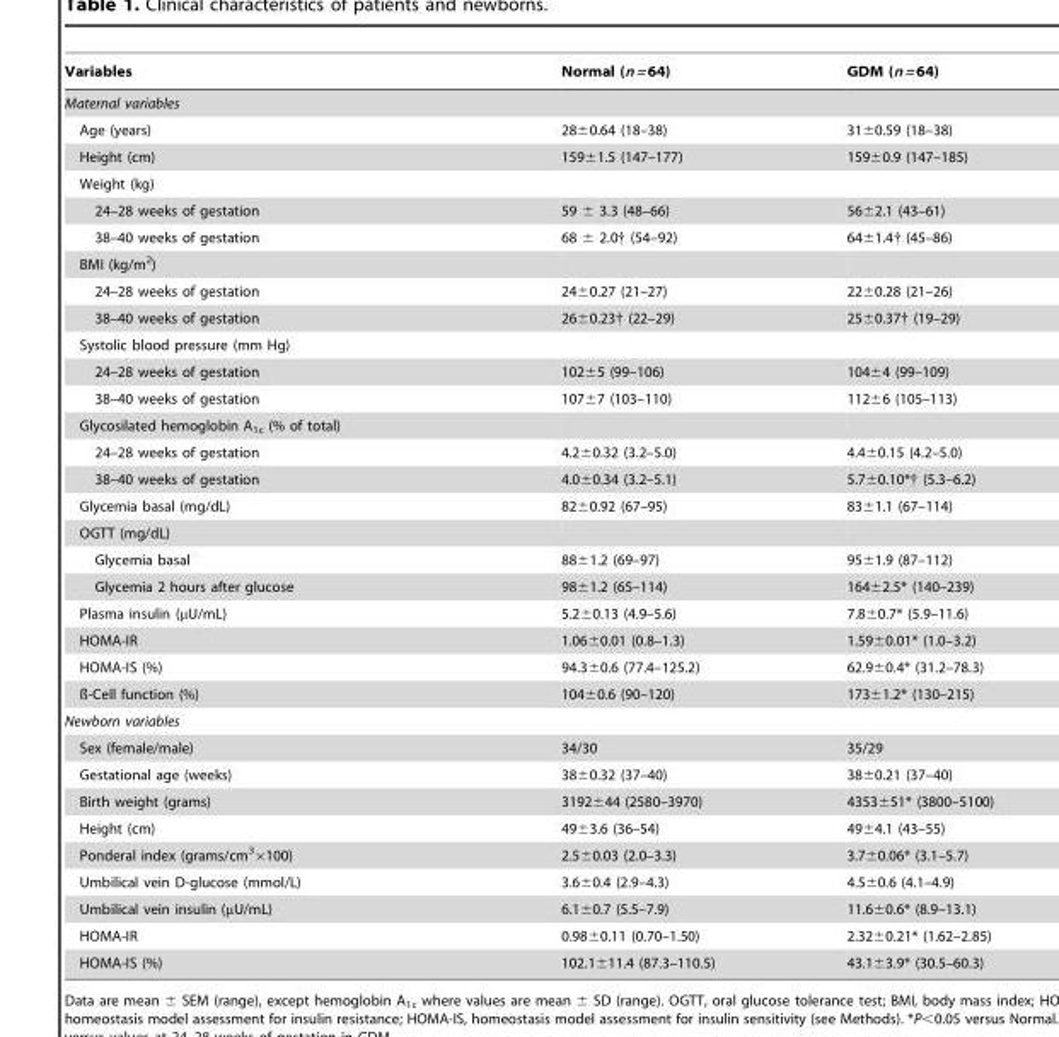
<table><thead><tr><td>Variables</td><td>Normal (n = 64)</td><td>GDM (n = 64)</td></tr></thead><tbody><tr><td colspan="3">Maternal variables</td></tr><tr><td>Age (years)</td><td>28±0.64 (18–38)</td><td>31±0.59 (18–38)</td></tr><tr><td>Height (cm)</td><td>159±1.5 (147–177)</td><td>159±0.9 (147–185)</td></tr><tr><td colspan="3">Weight (kg)</td></tr><tr><td>24–28 weeks of gestation</td><td>59 ± 3.3 (48–66)</td><td>56±2.1 (43–61)</td></tr><tr><td>38–40 weeks of gestation</td><td>68 ± 2.0† (54–92)</td><td>64±1.4† (45–86)</td></tr><tr><td colspan="3">BMI (kg/m<sup>2</sup>)</td></tr><tr><td>24–28 weeks of gestation</td><td>24±0.27 (21–27)</td><td>22±0.28 (21–26)</td></tr><tr><td>38–40 weeks of gestation</td><td>26±0.23† (22–29)</td><td>25±0.37† (19–29)</td></tr><tr><td colspan="3">Systolic blood pressure (mm Hg)</td></tr><tr><td>24–28 weeks of gestation</td><td>102±5 (99–106)</td><td>104±4 (99–109)</td></tr><tr><td>38–40 weeks of gestation</td><td>107±7 (103–110)</td><td>112±6 (105–113)</td></tr><tr><td colspan="3">Glycosilated hemoglobin A<sub>1c</sub> (% of total)</td></tr><tr><td>24–28 weeks of gestation</td><td>4.2±0.32 (3.2–5.0)</td><td>4.4±0.15 (4.2–5.0)</td></tr><tr><td>38–40 weeks of gestation</td><td>4.0±0.34 (3.2–5.1)</td><td>5.7±0.10*† (5.3–6.2)</td></tr><tr><td>Glycemia basal (mg/dL)</td><td>82±0.92 (67–95)</td><td>83±1.1 (67–114)</td></tr><tr><td colspan="3">OGTT (mg/dL)</td></tr><tr><td>Glycemia basal</td><td>88±1.2 (69–97)</td><td>95±1.9 (87–112)</td></tr><tr><td>Glycemia 2 hours after glucose</td><td>98±1.2 (65–114)</td><td>164±2.5* (140–239)</td></tr><tr><td>Plasma insulin (μU/mL)</td><td>5.2±0.13 (4.9–5.6)</td><td>7.8±0.7* (5.9–11.6)</td></tr><tr><td>HOMA-IR</td><td>1.06±0.01 (0.8–1.3)</td><td>1.59±0.01* (1.0–3.2)</td></tr><tr><td>HOMA-IS (%)</td><td>94.3±0.6 (77.4–125.2)</td><td>62.9±0.4* (31.2–78.3)</td></tr><tr><td>ß-Cell function (%)</td><td>104±0.6 (90–120)</td><td>173±1.2* (130–215)</td></tr><tr><td colspan="3">Newborn variables</td></tr><tr><td>Sex (female/male)</td><td>34/30</td><td>35/29</td></tr><tr><td>Gestational age (weeks)</td><td>38±0.32 (37–40)</td><td>38±0.21 (37–40)</td></tr><tr><td>Birth weight (grams)</td><td>3192±44 (2580–3970)</td><td>4353±51* (3800–5100)</td></tr><tr><td>Height (cm)</td><td>49±3.6 (36–54)</td><td>49±4.1 (43–55)</td></tr><tr><td>Ponderal index (grams/cm<sup>3</sup>×100)</td><td>2.5±0.03 (2.0–3.3)</td><td>3.7±0.06* (3.1–5.7)</td></tr><tr><td>Umbilical vein D-glucose (mmol/L)</td><td>3.6±0.4 (2.9–4.3)</td><td>4.5±0.6 (4.1–4.9)</td></tr><tr><td>Umbilical vein insulin (μU/mL)</td><td>6.1±0.7 (5.5–7.9)</td><td>11.6±0.6* (8.9–13.1)</td></tr><tr><td>HOMA-IR</td><td>0.98±0.11 (0.70–1.50)</td><td>2.32±0.21* (1.62–2.85)</td></tr><tr><td>HOMA-IS (%)</td><td>102.1±11.4 (87.3–110.5)</td><td>43.1±3.9* (30.5–60.3)</td></tr></tbody></table>